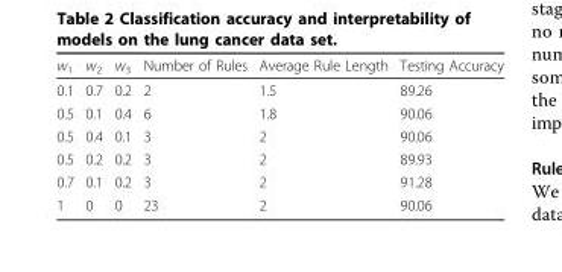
<table><thead><tr><td>w<sub>1</sub></td><td>w<sub>2</sub></td><td>w<sub>3</sub></td><td>Number of Rules</td><td>Average Rule Length</td><td>Testing Accuracy</td></tr></thead><tbody><tr><td>0.1</td><td>0.7</td><td>0.2</td><td>2</td><td>1.5</td><td>89.26</td></tr><tr><td>0.5</td><td>0.1</td><td>0.4</td><td>6</td><td>1.8</td><td>90.06</td></tr><tr><td>0.5</td><td>0.4</td><td>0.1</td><td>3</td><td>2</td><td>90.06</td></tr><tr><td>0.5</td><td>0.2</td><td>0.2</td><td>3</td><td>2</td><td>89.93</td></tr><tr><td>0.7</td><td>0.1</td><td>0.2</td><td>3</td><td>2</td><td>91.28</td></tr><tr><td>1</td><td>0</td><td>0</td><td>23</td><td>2</td><td>90.06</td></tr></tbody></table>